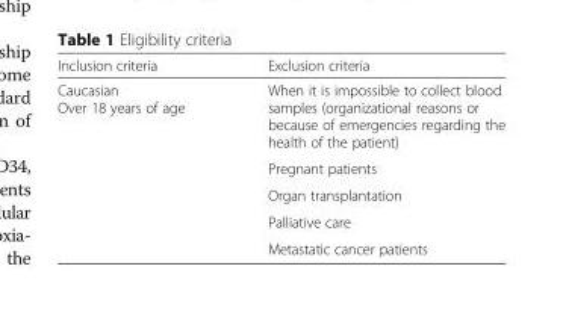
<table><thead><tr><td>Inclusion criteria</td><td>Exclusion criteria</td></tr></thead><tbody><tr><td rowspan="5">Caucasian Over 18 years of age</td><td>When it is impossible to collect blood samples (organizational reasons or because of emergencies regarding the health of the patient)</td></tr><tr><td>Pregnant patients</td></tr><tr><td>Organ transplantation</td></tr><tr><td>Palliative care</td></tr><tr><td>Metastatic cancer patients</td></tr></tbody></table>